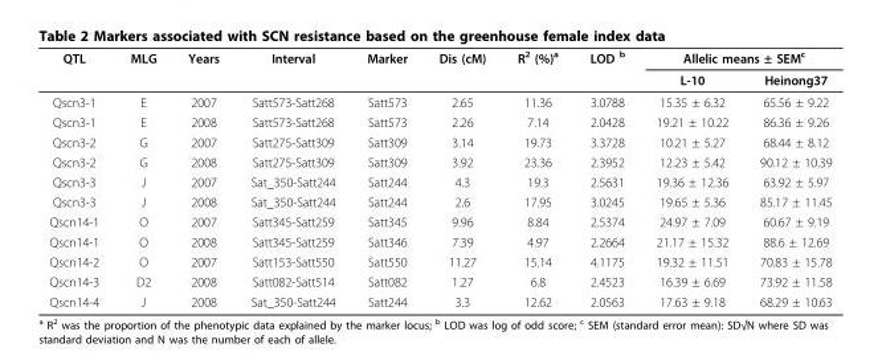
<table><thead><tr><td rowspan="2">QTL</td><td rowspan="2">MLG</td><td rowspan="2">Years</td><td rowspan="2">Interval</td><td rowspan="2">Marker</td><td rowspan="2">Dis (cM)</td><td rowspan="2">R<sup>2</sup> (%)<sup>a</sup></td><td rowspan="2">LOD <sup>b</sup></td><td colspan="2">Allelic means ± SEM<sup>c</sup></td></tr><tr><td>L-10</td><td>Heinong37</td></tr></thead><tbody><tr><td>Qscn3-1</td><td>E</td><td>2007</td><td>Satt573-Satt268</td><td>Satt573</td><td>2.65</td><td>11.36</td><td>3.0788</td><td>15.35 ± 6.32</td><td>65.56 ± 9.22</td></tr><tr><td>Qscn3-1</td><td>E</td><td>2008</td><td>Satt573-Satt268</td><td>Satt573</td><td>2.26</td><td>7.14</td><td>2.0428</td><td>19.21 ± 10.22</td><td>86.36 ± 9.26</td></tr><tr><td>Qscn3-2</td><td>G</td><td>2007</td><td>Satt275-Satt309</td><td>Satt309</td><td>3.14</td><td>19.73</td><td>3.3728</td><td>10.21 ± 5.27</td><td>68.44 ± 8.12</td></tr><tr><td>Qscn3-2</td><td>G</td><td>2008</td><td>Satt275-Satt309</td><td>Satt309</td><td>3.92</td><td>23.36</td><td>2.3952</td><td>12.23 ± 5.42</td><td>90.12 ± 10.39</td></tr><tr><td>Qscn3-3</td><td>J</td><td>2007</td><td>Sat_350-Satt244</td><td>Satt244</td><td>4.3</td><td>19.3</td><td>2.5631</td><td>19.36 ± 12.36</td><td>63.92 ± 5.97</td></tr><tr><td>Qscn3-3</td><td>J</td><td>2008</td><td>Sat_350-Satt244</td><td>Satt244</td><td>2.6</td><td>17.95</td><td>3.0245</td><td>19.65 ± 5.36</td><td>85.17 ± 11.45</td></tr><tr><td>Qscn14-1</td><td>O</td><td>2007</td><td>Satt345-Satt259</td><td>Satt345</td><td>9.96</td><td>8.84</td><td>2.5374</td><td>24.97 ± 7.09</td><td>60.67 ± 9.19</td></tr><tr><td>Qscn14-1</td><td>O</td><td>2008</td><td>Satt345-Satt259</td><td>Satt346</td><td>7.39</td><td>4.97</td><td>2.2664</td><td>21.17 ± 15.32</td><td>88.6 ± 12.69</td></tr><tr><td>Qscn14-2</td><td>O</td><td>2007</td><td>Satt153-Satt550</td><td>Satt550</td><td>11.27</td><td>15.14</td><td>4.1175</td><td>19.32 ± 11.51</td><td>70.83 ± 15.78</td></tr><tr><td>Qscn14-3</td><td>D2</td><td>2008</td><td>Satt082-Satt514</td><td>Satt082</td><td>1.27</td><td>6.8</td><td>2.4523</td><td>16.39 ± 6.69</td><td>73.92 ± 11.58</td></tr><tr><td>Qscn14-4</td><td>J</td><td>2008</td><td>Sat_350-Satt244</td><td>Satt244</td><td>3.3</td><td>12.62</td><td>2.0563</td><td>17.63 ± 9.18</td><td>68.29 ± 10.63</td></tr></tbody></table>